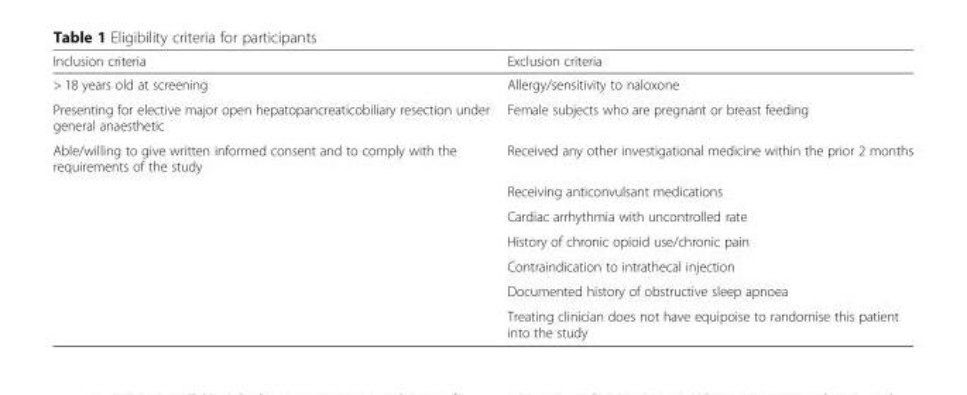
<table><thead><tr><td>Inclusion criteria</td><td>Exclusion criteria</td></tr></thead><tbody><tr><td>&gt; 18 years old at screening</td><td>Allergy/sensitivity to naloxone</td></tr><tr><td>Presenting for elective major open hepatopancreaticobiliary resection under general anaesthetic</td><td>Female subjects who are pregnant or breast feeding</td></tr><tr><td rowspan="7">Able/willing to give written informed consent and to comply with the requirements of the study</td><td>Received any other investigational medicine within the prior 2 months</td></tr><tr><td>Receiving anticonvulsant medications</td></tr><tr><td>Cardiac arrhythmia with uncontrolled rate</td></tr><tr><td>History of chronic opioid use/chronic pain</td></tr><tr><td>Contraindication to intrathecal injection</td></tr><tr><td>Documented history of obstructive sleep apnoea</td></tr><tr><td>Treating clinician does not have equipoise to randomise this patient into the study</td></tr></tbody></table>